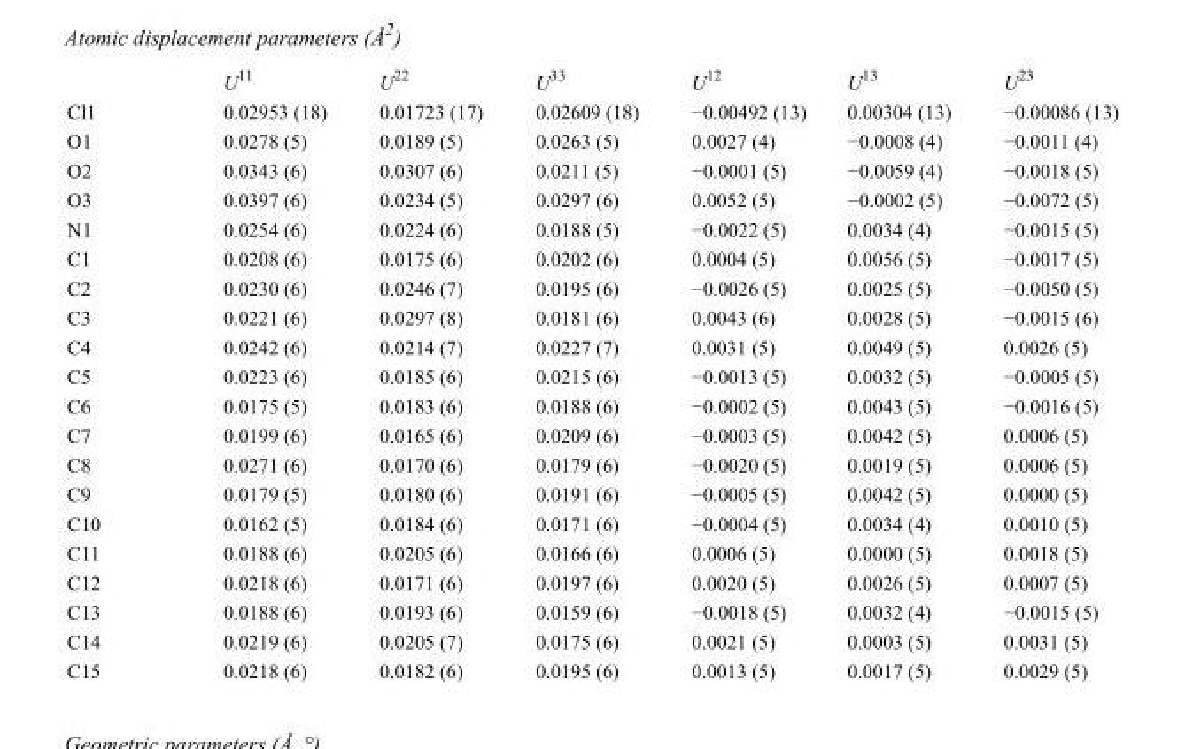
<table><thead><tr><td></td><td>U<sup>11</sup></td><td>U<sup>22</sup></td><td>U<sup>33</sup></td><td>U<sup>12</sup></td><td>U<sup>13</sup></td><td>U<sup>23</sup></td></tr></thead><tbody><tr><td>Cl1</td><td>0.02953 (18)</td><td>0.01723 (17)</td><td>0.02609 (18)</td><td>−0.00492 (13)</td><td>0.00304 (13)</td><td>−0.00086 (13)</td></tr><tr><td>O1</td><td>0.0278 (5)</td><td>0.0189 (5)</td><td>0.0263 (5)</td><td>0.0027 (4)</td><td>−0.0008 (4)</td><td>−0.0011 (4)</td></tr><tr><td>O2</td><td>0.0343 (6)</td><td>0.0307 (6)</td><td>0.0211 (5)</td><td>−0.0001 (5)</td><td>−0.0059 (4)</td><td>−0.0018 (5)</td></tr><tr><td>O3</td><td>0.0397 (6)</td><td>0.0234 (5)</td><td>0.0297 (6)</td><td>0.0052 (5)</td><td>−0.0002 (5)</td><td>−0.0072 (5)</td></tr><tr><td>N1</td><td>0.0254 (6)</td><td>0.0224 (6)</td><td>0.0188 (5)</td><td>−0.0022 (5)</td><td>0.0034 (4)</td><td>−0.0015 (5)</td></tr><tr><td>C1</td><td>0.0208 (6)</td><td>0.0175 (6)</td><td>0.0202 (6)</td><td>0.0004 (5)</td><td>0.0056 (5)</td><td>−0.0017 (5)</td></tr><tr><td>C2</td><td>0.0230 (6)</td><td>0.0246 (7)</td><td>0.0195 (6)</td><td>−0.0026 (5)</td><td>0.0025 (5)</td><td>−0.0050 (5)</td></tr><tr><td>C3</td><td>0.0221 (6)</td><td>0.0297 (8)</td><td>0.0181 (6)</td><td>0.0043 (6)</td><td>0.0028 (5)</td><td>−0.0015 (6)</td></tr><tr><td>C4</td><td>0.0242 (6)</td><td>0.0214 (7)</td><td>0.0227 (7)</td><td>0.0031 (5)</td><td>0.0049 (5)</td><td>0.0026 (5)</td></tr><tr><td>C5</td><td>0.0223 (6)</td><td>0.0185 (6)</td><td>0.0215 (6)</td><td>−0.0013 (5)</td><td>0.0032 (5)</td><td>−0.0005 (5)</td></tr><tr><td>C6</td><td>0.0175 (5)</td><td>0.0183 (6)</td><td>0.0188 (6)</td><td>−0.0002 (5)</td><td>0.0043 (5)</td><td>−0.0016 (5)</td></tr><tr><td>C7</td><td>0.0199 (6)</td><td>0.0165 (6)</td><td>0.0209 (6)</td><td>−0.0003 (5)</td><td>0.0042 (5)</td><td>0.0006 (5)</td></tr><tr><td>C8</td><td>0.0271 (6)</td><td>0.0170 (6)</td><td>0.0179 (6)</td><td>−0.0020 (5)</td><td>0.0019 (5)</td><td>0.0006 (5)</td></tr><tr><td>C9</td><td>0.0179 (5)</td><td>0.0180 (6)</td><td>0.0191 (6)</td><td>−0.0005 (5)</td><td>0.0042 (5)</td><td>0.0000 (5)</td></tr><tr><td>C10</td><td>0.0162 (5)</td><td>0.0184 (6)</td><td>0.0171 (6)</td><td>−0.0004 (5)</td><td>0.0034 (4)</td><td>0.0010 (5)</td></tr><tr><td>C11</td><td>0.0188 (6)</td><td>0.0205 (6)</td><td>0.0166 (6)</td><td>0.0006 (5)</td><td>0.0000 (5)</td><td>0.0018 (5)</td></tr><tr><td>C12</td><td>0.0218 (6)</td><td>0.0171 (6)</td><td>0.0197 (6)</td><td>0.0020 (5)</td><td>0.0026 (5)</td><td>0.0007 (5)</td></tr><tr><td>C13</td><td>0.0188 (6)</td><td>0.0193 (6)</td><td>0.0159 (6)</td><td>−0.0018 (5)</td><td>0.0032 (4)</td><td>−0.0015 (5)</td></tr><tr><td>C14</td><td>0.0219 (6)</td><td>0.0205 (7)</td><td>0.0175 (6)</td><td>0.0021 (5)</td><td>0.0003 (5)</td><td>0.0031 (5)</td></tr><tr><td>C15</td><td>0.0218 (6)</td><td>0.0182 (6)</td><td>0.0195 (6)</td><td>0.0013 (5)</td><td>0.0017 (5)</td><td>0.0029 (5)</td></tr></tbody></table>